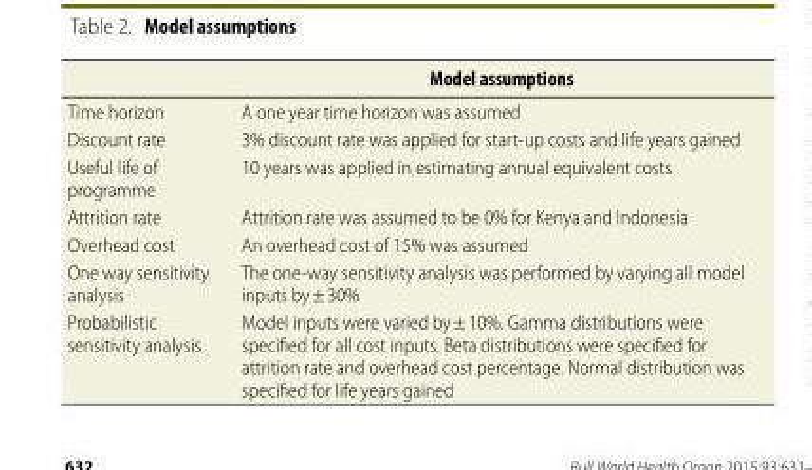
<table><thead><tr><td></td><td>Model assumptions</td></tr></thead><tbody><tr><td>Time horizon</td><td>A one year time horizon was assumed</td></tr><tr><td>Discount rate</td><td>3% discount rate was applied for start-up costs and life years gained</td></tr><tr><td>Useful life of programme</td><td>10 years was applied in estimating annual equivalent costs</td></tr><tr><td>Attrition rate</td><td>Attrition rate was assumed to be 0% for Kenya and Indonesia</td></tr><tr><td>Overhead cost</td><td>An overhead cost of 15% was assumed</td></tr><tr><td>One way sensitivity analysis</td><td>The one-way sensitivity analysis was performed by varying all model inputs by ± 30%</td></tr><tr><td>Probabilistic sensitivity analysis</td><td>Model inputs were varied by ± 10%. Gamma distributions were specified for all cost inputs. Beta distributions were specified for attrition rate and overhead cost percentage. Normal distribution was specified for life years gained</td></tr></tbody></table>